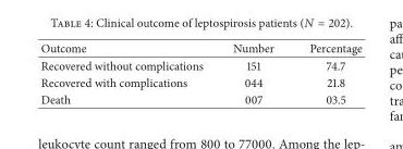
<table><thead><tr><td>Outcome</td><td>Number</td><td>Percentage</td></tr></thead><tbody><tr><td>Recovered without complications</td><td>151</td><td>74.7</td></tr><tr><td>Recovered with complications</td><td>044</td><td>21.8</td></tr><tr><td>Death</td><td>007</td><td>03.5</td></tr></tbody></table>